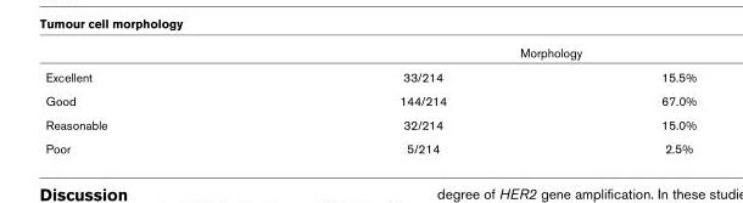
<table><thead><tr><td rowspan="2">Excellent</td><td colspan="2">Morphology</td></tr><tr><td>33/214</td><td>15.5%</td></tr></thead><tbody><tr><td>Good</td><td>144/214</td><td>67.0%</td></tr><tr><td>Reasonable</td><td>32/214</td><td>15.0%</td></tr><tr><td>Poor</td><td>5/214</td><td>2.5%</td></tr></tbody></table>